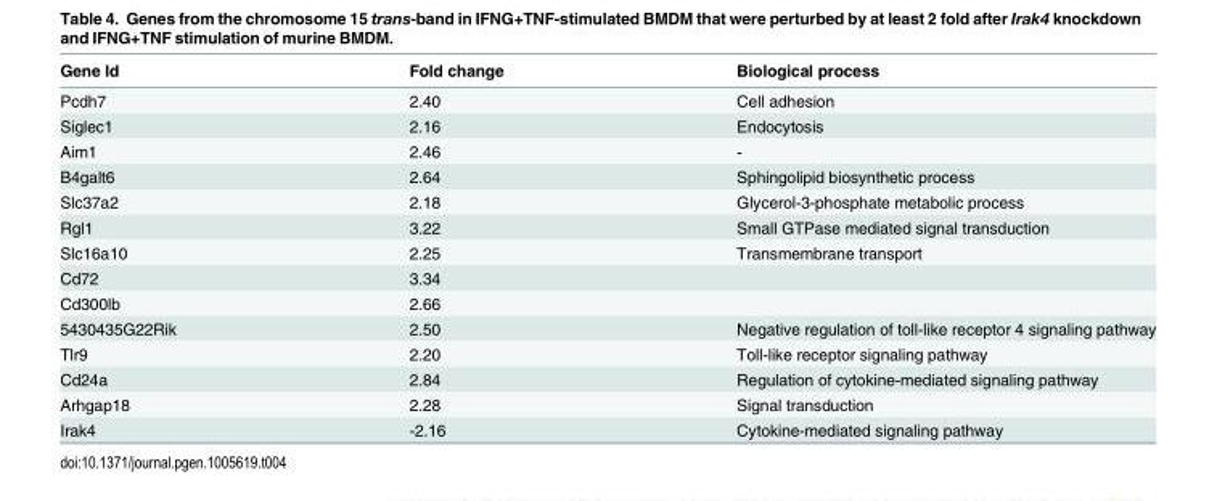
<table><thead><tr><td>Gene Id</td><td>Fold change</td><td>Biological process</td></tr></thead><tbody><tr><td>Pcdh7</td><td>2.40</td><td>Cell adhesion</td></tr><tr><td>Siglec1</td><td>2.16</td><td>Endocytosis</td></tr><tr><td>Aim1</td><td>2.46</td><td>-</td></tr><tr><td>B4galt6</td><td>2.64</td><td>Sphingolipid biosynthetic process</td></tr><tr><td>Slc37a2</td><td>2.18</td><td>Glycerol-3-phosphate metabolic process</td></tr><tr><td>Rgl1</td><td>3.22</td><td>Small GTPase mediated signal transduction</td></tr><tr><td>Slc16a10</td><td>2.25</td><td>Transmembrane transport</td></tr><tr><td>Cd72</td><td>3.34</td><td></td></tr><tr><td>Cd300lb</td><td>2.66</td><td></td></tr><tr><td>5430435G22Rik</td><td>2.50</td><td>Negative regulation of toll-like receptor 4 signaling pathway</td></tr><tr><td>Tlr9</td><td>2.20</td><td>Toll-like receptor signaling pathway</td></tr><tr><td>Cd24a</td><td>2.84</td><td>Regulation of cytokine-mediated signaling pathway</td></tr><tr><td>Arhgap18</td><td>2.28</td><td>Signal transduction</td></tr><tr><td>Irak4</td><td>-2.16</td><td>Cytokine-mediated signaling pathway</td></tr></tbody></table>